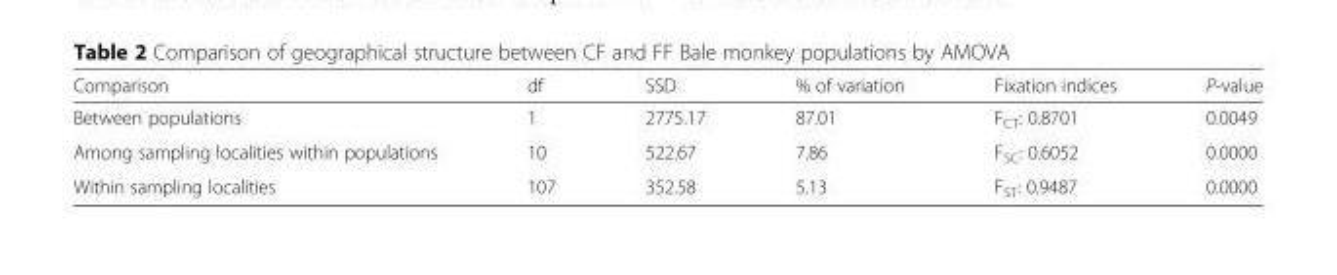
<table><thead><tr><td>Comparison</td><td>df</td><td>SSD</td><td>% of variation</td><td>Fixation indices</td><td>P-value</td></tr></thead><tbody><tr><td>Between populations</td><td>1</td><td>2775.17</td><td>87.01</td><td>F<sub>CT</sub>: 0.8701</td><td>0.0049</td></tr><tr><td>Among sampling localities within populations</td><td>10</td><td>522.67</td><td>7.86</td><td>F<sub>SC</sub>: 0.6052</td><td>0.0000</td></tr><tr><td>Within sampling localities</td><td>107</td><td>352.58</td><td>5.13</td><td>F<sub>ST</sub>: 0.9487</td><td>0.0000</td></tr></tbody></table>